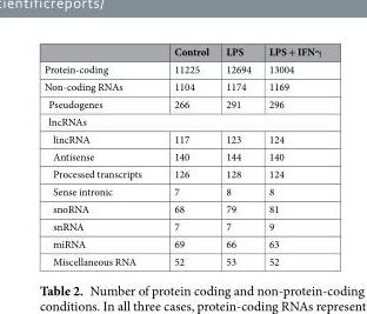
<table><thead><tr><td></td><td>Control</td><td>LPS</td><td>LPS + IFNγ</td></tr></thead><tbody><tr><td>Protein-coding</td><td>11225</td><td>12694</td><td>13004</td></tr><tr><td>Non-coding RNAs</td><td>1104</td><td>1174</td><td>1169</td></tr><tr><td>Pseudogenes</td><td>266</td><td>291</td><td>296</td></tr><tr><td colspan="4">lncRNAs</td></tr><tr><td>lincRNA</td><td>117</td><td>123</td><td>124</td></tr><tr><td>Antisense</td><td>140</td><td>144</td><td>140</td></tr><tr><td>Processed transcripts</td><td>126</td><td>128</td><td>124</td></tr><tr><td>Sense intronic</td><td>7</td><td>8</td><td>8</td></tr><tr><td>snoRNA</td><td>68</td><td>79</td><td>81</td></tr><tr><td>snRNA</td><td>7</td><td>7</td><td>9</td></tr><tr><td>miRNA</td><td>69</td><td>66</td><td>63</td></tr><tr><td>Miscellaneous RNA</td><td>52</td><td>53</td><td>52</td></tr></tbody></table>